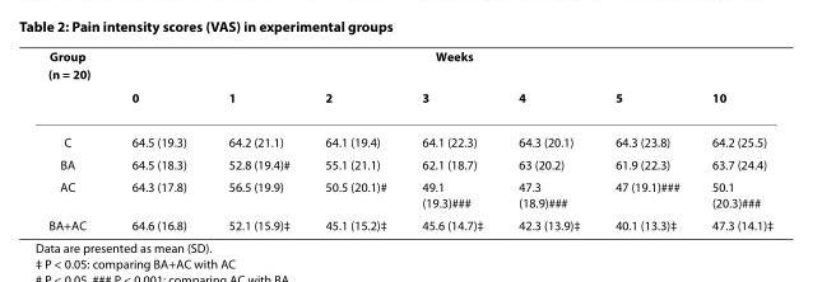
<table><thead><tr><td rowspan="2">Group (n = 20)</td><td colspan="7">Weeks</td></tr><tr><td>0</td><td>1</td><td>2</td><td>3</td><td>4</td><td>5</td><td>10</td></tr></thead><tbody><tr><td>C</td><td>64.5 (19.3)</td><td>64.2 (21.1)</td><td>64.1 (19.4)</td><td>64.1 (22.3)</td><td>64.3 (20.1)</td><td>64.3 (23.8)</td><td>64.2 (25.5)</td></tr><tr><td>BA</td><td>64.5 (18.3)</td><td>52.8 (19.4)#</td><td>55.1 (21.1)</td><td>62.1 (18.7)</td><td>63 (20.2)</td><td>61.9 (22.3)</td><td>63.7 (24.4)</td></tr><tr><td>AC</td><td>64.3 (17.8)</td><td>56.5 (19.9)</td><td>50.5 (20.1)#</td><td>49.1 (19.3)###</td><td>47.3 (18.9)###</td><td>47 (19.1)###</td><td>50.1 (20.3)###</td></tr><tr><td>BA+AC</td><td>64.6 (16.8)</td><td>52.1 (15.9)‡</td><td>45.1 (15.2)‡</td><td>45.6 (14.7)‡</td><td>42.3 (13.9)‡</td><td>40.1 (13.3)‡</td><td>47.3 (14.1)‡</td></tr></tbody></table>